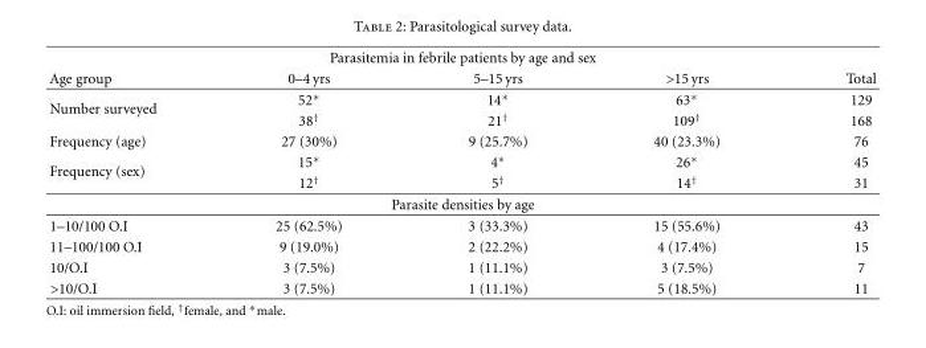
<table><thead><tr><td colspan="5">Parasitemia in febrile patients by age and sex</td></tr><tr><td>Age group</td><td>0–4 yrs</td><td>5–15 yrs</td><td>&gt;15 yrs</td><td>Total</td></tr></thead><tbody><tr><td rowspan="2">Number surveyed</td><td>52∗</td><td>14∗</td><td>63∗</td><td>129</td></tr><tr><td>38<sup>†</sup></td><td>21<sup>†</sup></td><td>109<sup>†</sup></td><td>168</td></tr><tr><td>Frequency (age)</td><td>27 (30%)</td><td>9 (25.7%)</td><td>40 (23.3%)</td><td>76</td></tr><tr><td rowspan="2">Frequency (sex)</td><td>15∗</td><td>4∗</td><td>26∗</td><td>45</td></tr><tr><td>12<sup>†</sup></td><td>5<sup>†</sup></td><td>14<sup>†</sup></td><td>31</td></tr><tr><td colspan="5">Parasite densities by age</td></tr><tr><td>1–10/100 O.I</td><td>25 (62.5%)</td><td>3 (33.3%)</td><td>15 (55.6%)</td><td>43</td></tr><tr><td>11–100/100 O.I</td><td>9 (19.0%)</td><td>2 (22.2%)</td><td>4 (17.4%)</td><td>15</td></tr><tr><td>10/O.I</td><td>3 (7.5%)</td><td>1 (11.1%)</td><td>3 (7.5%)</td><td>7</td></tr><tr><td>&gt;10/O.I</td><td>3 (7.5%)</td><td>1 (11.1%)</td><td>5 (18.5%)</td><td>11</td></tr></tbody></table>